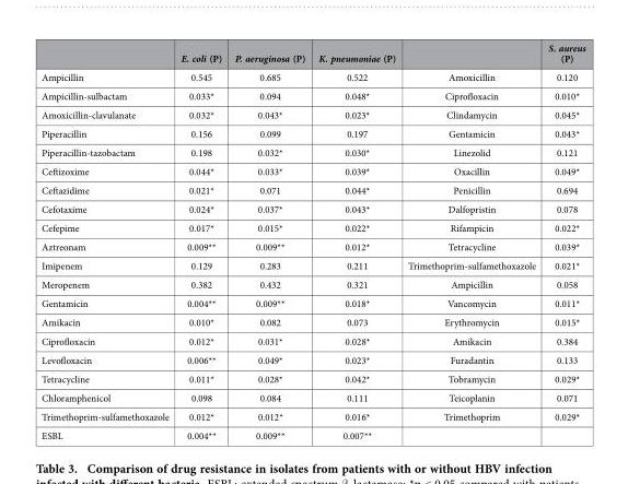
<table><thead><tr><td></td><td>E. coli (P)</td><td>P. aeruginosa (P)</td><td>K. pneumoniae (P)</td><td></td><td>S. aureus (P)</td></tr></thead><tbody><tr><td>Ampicillin</td><td>0.545</td><td>0.685</td><td>0.522</td><td>Amoxicillin</td><td>0.120</td></tr><tr><td>Ampicillin-sulbactam</td><td>0.033*</td><td>0.094</td><td>0.048*</td><td>Ciprofloxacin</td><td>0.010*</td></tr><tr><td>Amoxicillin-clavulanate</td><td>0.032*</td><td>0.043*</td><td>0.023*</td><td>Clindamycin</td><td>0.045*</td></tr><tr><td>Piperacillin</td><td>0.156</td><td>0.099</td><td>0.197</td><td>Gentamicin</td><td>0.043*</td></tr><tr><td>Piperacillin-tazobactam</td><td>0.198</td><td>0.032*</td><td>0.030*</td><td>Linezolid</td><td>0.121</td></tr><tr><td>Ceftizoxime</td><td>0.044*</td><td>0.033*</td><td>0.039*</td><td>Oxacillin</td><td>0.049*</td></tr><tr><td>Ceftazidime</td><td>0.021*</td><td>0.071</td><td>0.044*</td><td>Penicillin</td><td>0.694</td></tr><tr><td>Cefotaxime</td><td>0.024*</td><td>0.037*</td><td>0.043*</td><td>Dalfopristin</td><td>0.078</td></tr><tr><td>Cefepime</td><td>0.017*</td><td>0.015*</td><td>0.022*</td><td>Rifampicin</td><td>0.022*</td></tr><tr><td>Aztreonam</td><td>0.009**</td><td>0.009**</td><td>0.012*</td><td>Tetracycline</td><td>0.039*</td></tr><tr><td>Imipenem</td><td>0.129</td><td>0.283</td><td>0.211</td><td>Trimethoprim-sulfamethoxazole</td><td>0.021*</td></tr><tr><td>Meropenem</td><td>0.382</td><td>0.432</td><td>0.321</td><td>Ampicillin</td><td>0.058</td></tr><tr><td>Gentamicin</td><td>0.004**</td><td>0.009**</td><td>0.018*</td><td>Vancomycin</td><td>0.011*</td></tr><tr><td>Amikacin</td><td>0.010*</td><td>0.082</td><td>0.073</td><td>Erythromycin</td><td>0.015*</td></tr><tr><td>Ciprofloxacin</td><td>0.012*</td><td>0.031*</td><td>0.028*</td><td>Amikacin</td><td>0.384</td></tr><tr><td>Levofloxacin</td><td>0.006**</td><td>0.049*</td><td>0.023*</td><td>Furadantin</td><td>0.133</td></tr><tr><td>Tetracycline</td><td>0.011*</td><td>0.028*</td><td>0.042*</td><td>Tobramycin</td><td>0.029*</td></tr><tr><td>Chloramphenicol</td><td>0.098</td><td>0.084</td><td>0.111</td><td>Teicoplanin</td><td>0.071</td></tr><tr><td>Trimethoprim-sulfamethoxazole</td><td>0.012*</td><td>0.012*</td><td>0.016*</td><td>Trimethoprim</td><td>0.029*</td></tr><tr><td>ESBL</td><td>0.004**</td><td>0.009**</td><td>0.007**</td><td></td><td></td></tr></tbody></table>